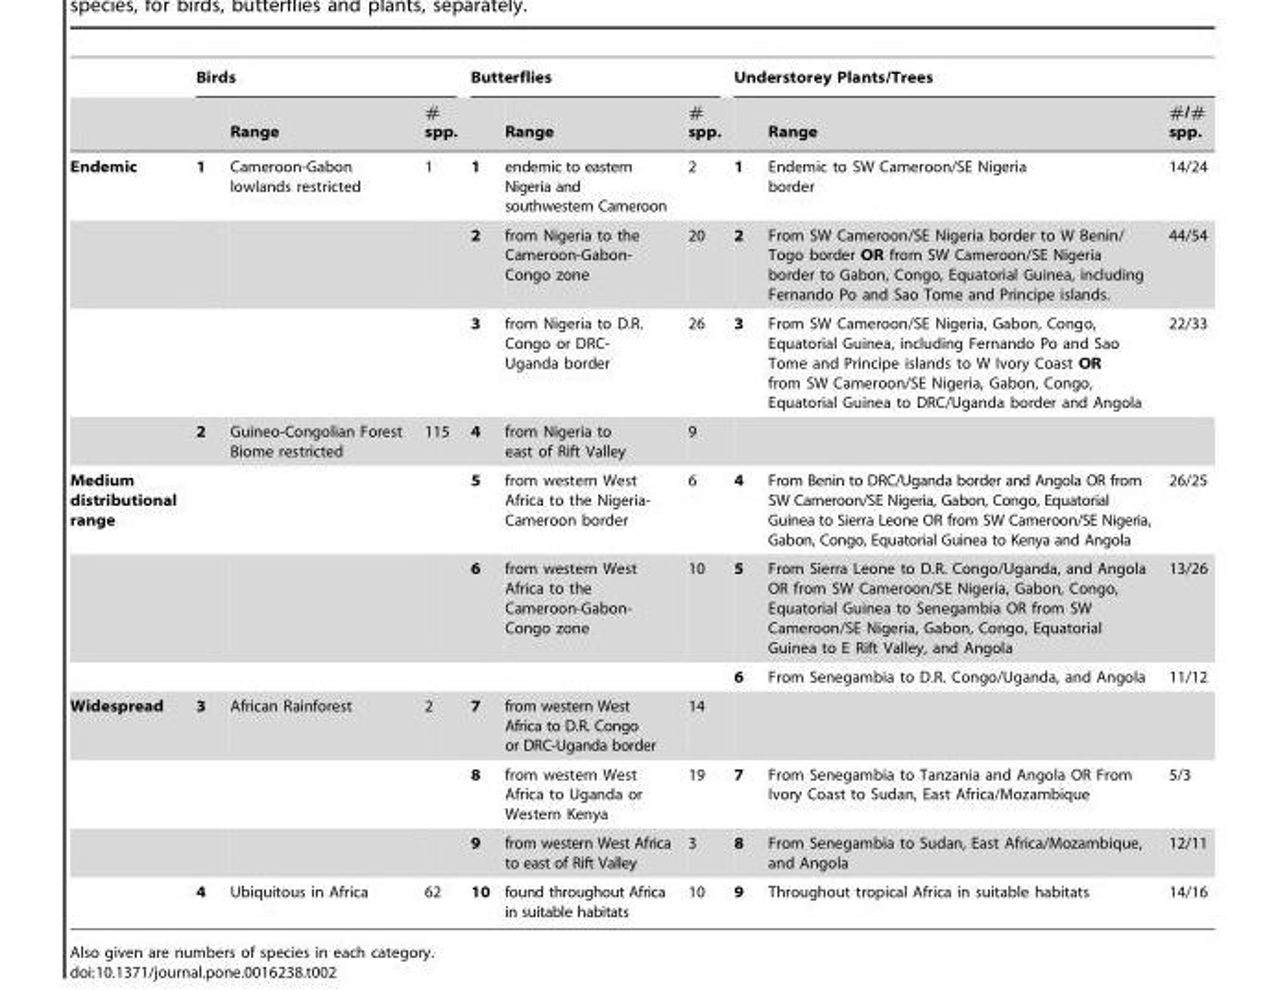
<table><thead><tr><td rowspan="2"></td><td colspan="3">Birds</td><td colspan="3">Butterflies</td><td colspan="3">Understorey Plants/Trees</td></tr><tr><td></td><td>Range</td><td># spp.</td><td></td><td>Range</td><td># spp.</td><td></td><td>Range</td><td>#/# spp.</td></tr></thead><tbody><tr><td rowspan="4">Endemic</td><td>1</td><td>Cameroon-Gabon lowlands restricted</td><td>1</td><td>1</td><td>endemic to eastern Nigeria and southwestern Cameroon</td><td>2</td><td>1</td><td>Endemic to SW Cameroon/SE Nigeria border</td><td>14/24</td></tr><tr><td></td><td></td><td></td><td>2</td><td>from Nigeria to the Cameroon-Gabon- Congo zone</td><td>20</td><td>2</td><td>From SW Cameroon/SE Nigeria border to W Benin/ Togo border OR from SW Cameroon/SE Nigeria border to Gabon, Congo, Equatorial Guinea, including Fernando Po and Sao Tome and Principe islands.</td><td>44/54</td></tr><tr><td></td><td></td><td></td><td>3</td><td>from Nigeria to D.R. Congo or DRC- Uganda border</td><td>26</td><td>3</td><td>From SW Cameroon/SE Nigeria, Gabon, Congo, Equatorial Guinea, including Fernando Po and Sao Tome and Principe islands to W Ivory Coast OR from SW Cameroon/SE Nigeria, Gabon, Congo, Equatorial Guinea to DRC/Uganda border and Angola</td><td>22/33</td></tr><tr><td>2</td><td>Guineo-Congolian Forest Biome restricted</td><td>115</td><td>4</td><td>from Nigeria to east of Rift Valley</td><td>9</td><td></td><td></td><td></td></tr><tr><td rowspan="3">Medium distributional range</td><td></td><td></td><td></td><td>5</td><td>from western West Africa to the Nigeria- Cameroon border</td><td>6</td><td>4</td><td>From Benin to DRC/Uganda border and Angola OR from SW Cameroon/SE Nigeria, Gabon, Congo, Equatorial Guinea to Sierra Leone OR from SW Cameroon/SE Nigeria, Gabon, Congo, Equatorial Guinea to Kenya and Angola</td><td>26/25</td></tr><tr><td></td><td></td><td></td><td>6</td><td>from western West Africa to the Cameroon-Gabon- Congo zone</td><td>10</td><td>5</td><td>From Sierra Leone to D.R. Congo/Uganda, and Angola OR from SW Cameroon/SE Nigeria, Gabon, Congo, Equatorial Guinea to Senegambia OR from SW Cameroon/SE Nigeria, Gabon, Congo, Equatorial Guinea to E Rift Valley, and Angola</td><td>13/26</td></tr><tr><td></td><td></td><td></td><td></td><td></td><td></td><td>6</td><td>From Senegambia to D.R. Congo/Uganda, and Angola</td><td>11/12</td></tr><tr><td rowspan="4">Widespread</td><td>3</td><td>African Rainforest</td><td>2</td><td>7</td><td>from western West Africa to D.R. Congo or DRC-Uganda border</td><td>14</td><td></td><td></td><td></td></tr><tr><td></td><td></td><td></td><td>8</td><td>from western West Africa to Uganda or Western Kenya</td><td>19</td><td>7</td><td>From Senegambia to Tanzania and Angola OR From Ivory Coast to Sudan, East Africa/Mozambique</td><td>5/3</td></tr><tr><td></td><td></td><td></td><td>9</td><td>from western West Africa to east of Rift Valley</td><td>3</td><td>8</td><td>From Senegambia to Sudan, East Africa/Mozambique, and Angola</td><td>12/11</td></tr><tr><td>4</td><td>Ubiquitous in Africa</td><td>62</td><td>10</td><td>found throughout Africa in suitable habitats</td><td>10</td><td>9</td><td>Throughout tropical Africa in suitable habitats</td><td>14/16</td></tr></tbody></table>